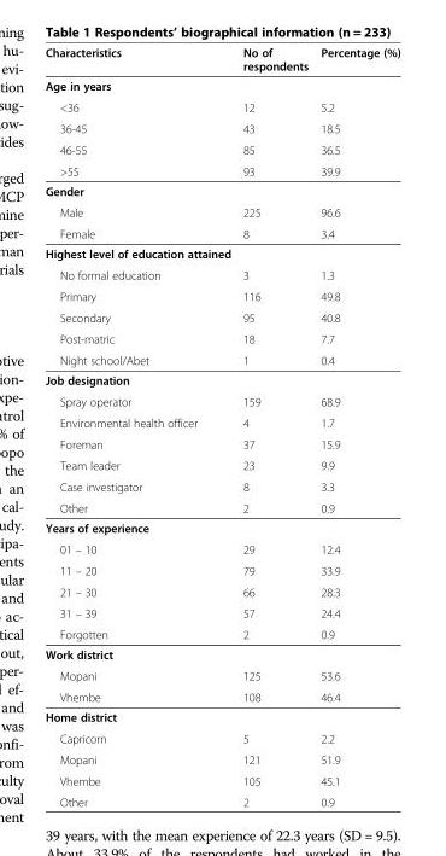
<table><thead><tr><td>Characteristics</td><td>No of respondents</td><td>Percentage (%)</td></tr></thead><tbody><tr><td colspan="3">Age in years</td></tr><tr><td>&lt;36</td><td>12</td><td>5.2</td></tr><tr><td>36-45</td><td>43</td><td>18.5</td></tr><tr><td>46-55</td><td>85</td><td>36.5</td></tr><tr><td>&gt;55</td><td>93</td><td>39.9</td></tr><tr><td colspan="3">Gender</td></tr><tr><td>Male</td><td>225</td><td>96.6</td></tr><tr><td>Female</td><td>8</td><td>3.4</td></tr><tr><td colspan="3">Highest level of education attained</td></tr><tr><td>No formal education</td><td>3</td><td>1.3</td></tr><tr><td>Primary</td><td>116</td><td>49.8</td></tr><tr><td>Secondary</td><td>95</td><td>40.8</td></tr><tr><td>Post-matric</td><td>18</td><td>7.7</td></tr><tr><td>Night school/Abet</td><td>1</td><td>0.4</td></tr><tr><td colspan="3">Job designation</td></tr><tr><td>Spray operator</td><td>159</td><td>68.9</td></tr><tr><td>Environmental health officer</td><td>4</td><td>1.7</td></tr><tr><td>Foreman</td><td>37</td><td>15.9</td></tr><tr><td>Team leader</td><td>23</td><td>9.9</td></tr><tr><td>Case investigator</td><td>8</td><td>3.3</td></tr><tr><td>Other</td><td>2</td><td>0.9</td></tr><tr><td colspan="3">Years of experience</td></tr><tr><td>01 – 10</td><td>29</td><td>12.4</td></tr><tr><td>11 – 20</td><td>79</td><td>33.9</td></tr><tr><td>21 – 30</td><td>66</td><td>28.3</td></tr><tr><td>31 – 39</td><td>57</td><td>24.4</td></tr><tr><td>Forgotten</td><td>2</td><td>0.9</td></tr><tr><td colspan="3">Work district</td></tr><tr><td>Mopani</td><td>125</td><td>53.6</td></tr><tr><td>Vhembe</td><td>108</td><td>46.4</td></tr><tr><td colspan="3">Home district</td></tr><tr><td>Capricorn</td><td>5</td><td>2.2</td></tr><tr><td>Mopani</td><td>121</td><td>51.9</td></tr><tr><td>Vhembe</td><td>105</td><td>45.1</td></tr><tr><td>Other</td><td>2</td><td>0.9</td></tr></tbody></table>